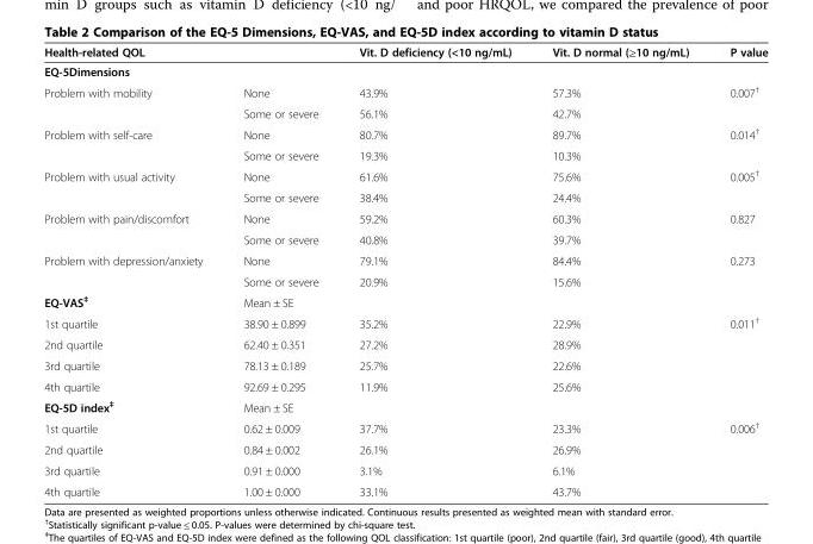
<table><thead><tr><td colspan="2">Health-related QOL</td><td rowspan="2">Vit. D deficiency (&lt;10 ng/mL)</td><td rowspan="2">Vit. D normal (≥10 ng/mL)</td><td rowspan="2">P value</td></tr><tr><td>EQ-5Dimensions</td><td></td></tr></thead><tbody><tr><td rowspan="2">Problem with mobility</td><td>None</td><td>43.9%</td><td>57.3%</td><td rowspan="2">0.007<sup>†</sup></td></tr><tr><td>Some or severe</td><td>56.1%</td><td>42.7%</td></tr><tr><td rowspan="2">Problem with self-care</td><td>None</td><td>80.7%</td><td>89.7%</td><td rowspan="2">0.014<sup>†</sup></td></tr><tr><td>Some or severe</td><td>19.3%</td><td>10.3%</td></tr><tr><td rowspan="2">Problem with usual activity</td><td>None</td><td>61.6%</td><td>75.6%</td><td rowspan="2">0.005<sup>†</sup></td></tr><tr><td>Some or severe</td><td>38.4%</td><td>24.4%</td></tr><tr><td rowspan="2">Problem with pain/discomfort</td><td>None</td><td>59.2%</td><td>60.3%</td><td rowspan="2">0.827</td></tr><tr><td>Some or severe</td><td>40.8%</td><td>39.7%</td></tr><tr><td rowspan="2">Problem with depression/anxiety</td><td>None</td><td>79.1%</td><td>84.4%</td><td rowspan="2">0.273</td></tr><tr><td>Some or severe</td><td>20.9%</td><td>15.6%</td></tr><tr><td>EQ-VAS<sup>‡</sup></td><td>Mean ± SE</td><td></td><td></td><td></td></tr><tr><td>1st quartile</td><td>38.90 ± 0.899</td><td>35.2%</td><td>22.9%</td><td rowspan="4">0.011<sup>†</sup></td></tr><tr><td>2nd quartile</td><td>62.40 ± 0.351</td><td>27.2%</td><td>28.9%</td></tr><tr><td>3rd quartile</td><td>78.13 ± 0.189</td><td>25.7%</td><td>22.6%</td></tr><tr><td>4th quartile</td><td>92.69 ± 0.295</td><td>11.9%</td><td>25.6%</td></tr><tr><td>EQ-5D index<sup>‡</sup></td><td>Mean ± SE</td><td></td><td></td><td></td></tr><tr><td>1st quartile</td><td>0.62 ± 0.009</td><td>37.7%</td><td>23.3%</td><td rowspan="4">0.006<sup>†</sup></td></tr><tr><td>2nd quartile</td><td>0.84 ± 0.002</td><td>26.1%</td><td>26.9%</td></tr><tr><td>3rd quartile</td><td>0.91 ± 0.000</td><td>3.1%</td><td>6.1%</td></tr><tr><td>4th quartile</td><td>1.00 ± 0.000</td><td>33.1%</td><td>43.7%</td></tr></tbody></table>